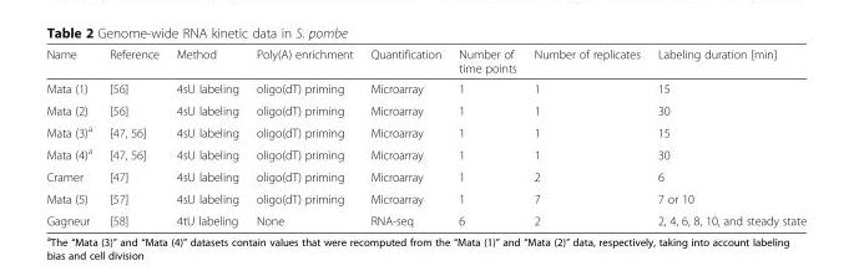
<table><thead><tr><td>Name</td><td>Reference</td><td>Method</td><td>Poly(A) enrichment</td><td>Quantification</td><td>Number of time points</td><td>Number of replicates</td><td>Labeling duration [min]</td></tr></thead><tbody><tr><td>Mata (1)</td><td>[56]</td><td>4sU labeling</td><td>oligo(dT) priming</td><td>Microarray</td><td>1</td><td>1</td><td>15</td></tr><tr><td>Mata (2)</td><td>[56]</td><td>4sU labeling</td><td>oligo(dT) priming</td><td>Microarray</td><td>1</td><td>1</td><td>30</td></tr><tr><td>Mata (3)<sup>a</sup></td><td>[47, 56]</td><td>4sU labeling</td><td>oligo(dT) priming</td><td>Microarray</td><td>1</td><td>1</td><td>15</td></tr><tr><td>Mata (4)<sup>a</sup></td><td>[47, 56]</td><td>4sU labeling</td><td>oligo(dT) priming</td><td>Microarray</td><td>1</td><td>1</td><td>30</td></tr><tr><td>Cramer</td><td>[47]</td><td>4sU labeling</td><td>oligo(dT) priming</td><td>Microarray</td><td>1</td><td>2</td><td>6</td></tr><tr><td>Mata (5)</td><td>[57]</td><td>4sU labeling</td><td>oligo(dT) priming</td><td>Microarray</td><td>1</td><td>7</td><td>7 or 10</td></tr><tr><td>Gagneur</td><td>[58]</td><td>4tU labeling</td><td>None</td><td>RNA-seq</td><td>6</td><td>2</td><td>2, 4, 6, 8, 10, and steady state</td></tr></tbody></table>